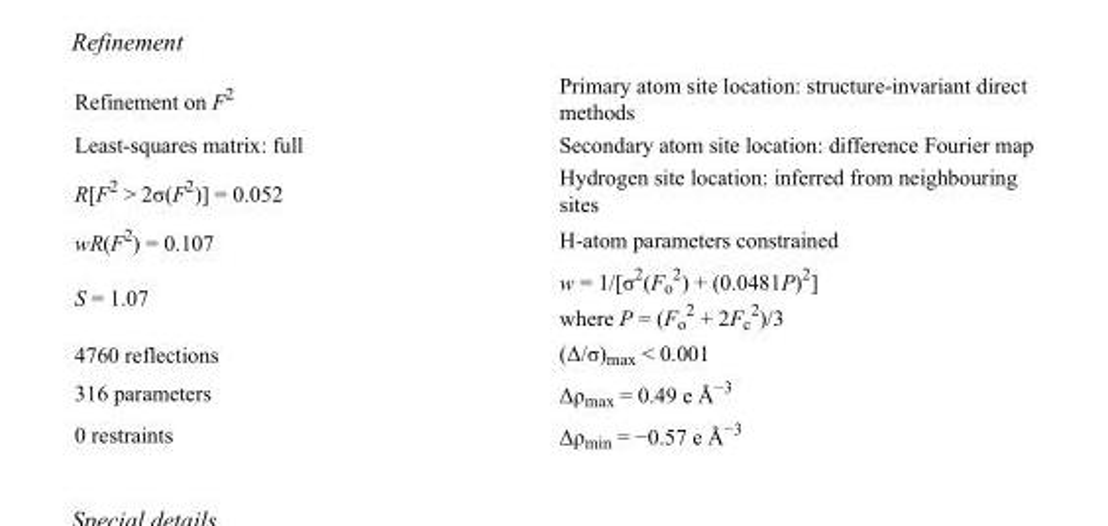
<table><tbody><tr><td>Refinement on F<sup>2</sup></td><td>Primary atom site location: structure-invariant direct methods</td></tr><tr><td>Least-squares matrix: full</td><td>Secondary atom site location: difference Fourier map</td></tr><tr><td>R[F<sup>2</sup> &gt; 2σ(F<sup>2</sup>)] = 0.052</td><td>Hydrogen site location: inferred from neighbouring sites</td></tr><tr><td>wR(F<sup>2</sup>) = 0.107</td><td>H-atom parameters constrained</td></tr><tr><td>S = 1.07</td><td>w = 1/[σ<sup>2</sup>(F<sub>o</sub> <sup>2</sup>) + (0.0481P)<sup>2</sup>] where P = (F<sub>o</sub> <sup>2</sup> + 2F<sub>c</sub> <sup>2</sup>)/3</td></tr><tr><td>4760 reflections</td><td>(Δ/σ)<sub>max</sub> &lt; 0.001</td></tr><tr><td>316 parameters</td><td>Δρ<sub>max</sub> = 0.49 e Å<sup>−3</sup></td></tr><tr><td>0 restraints</td><td>Δρ<sub>min</sub> = −0.57 e Å<sup>−3</sup></td></tr></tbody></table>